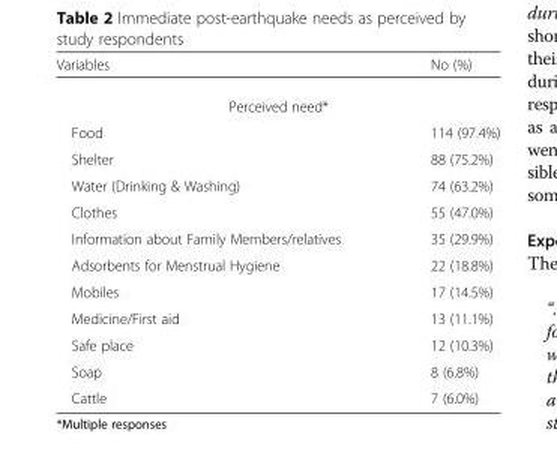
<table><thead><tr><td>Variables</td><td>No (%)</td></tr></thead><tbody><tr><td colspan="2">Perceived need*</td></tr><tr><td>Food</td><td>114 (97.4%)</td></tr><tr><td>Shelter</td><td>88 (75.2%)</td></tr><tr><td>Water (Drinking &amp; Washing)</td><td>74 (63.2%)</td></tr><tr><td>Clothes</td><td>55 (47.0%)</td></tr><tr><td>Information about Family Members/relatives</td><td>35 (29.9%)</td></tr><tr><td>Adsorbents for Menstrual Hygiene</td><td>22 (18.8%)</td></tr><tr><td>Mobiles</td><td>17 (14.5%)</td></tr><tr><td>Medicine/First aid</td><td>13 (11.1%)</td></tr><tr><td>Safe place</td><td>12 (10.3%)</td></tr><tr><td>Soap</td><td>8 (6.8%)</td></tr><tr><td>Cattle</td><td>7 (6.0%)</td></tr></tbody></table>